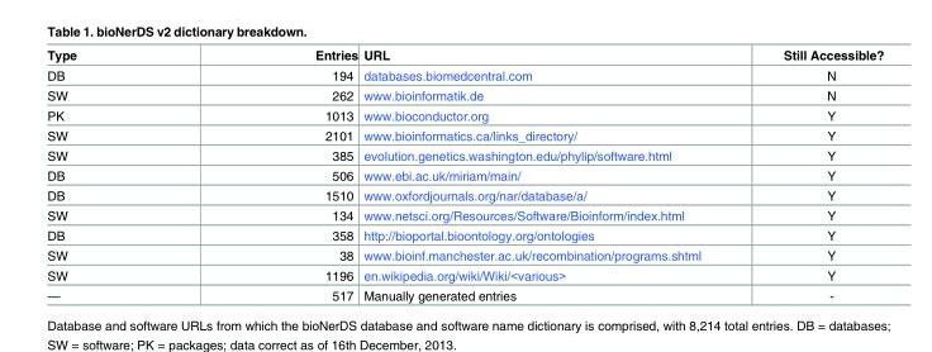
<table><thead><tr><td>Type</td><td>Entries</td><td>URL</td><td>Still Accessible?</td></tr></thead><tbody><tr><td>DB</td><td>194</td><td>databases.biomedcentral.com</td><td>N</td></tr><tr><td>SW</td><td>262</td><td>www.bioinformatik.de</td><td>N</td></tr><tr><td>PK</td><td>1013</td><td>www.bioconductor.org</td><td>Y</td></tr><tr><td>SW</td><td>2101</td><td>www.bioinformatics.ca/links_directory/</td><td>Y</td></tr><tr><td>SW</td><td>385</td><td>evolution.genetics.washington.edu/phylip/software.html</td><td>Y</td></tr><tr><td>DB</td><td>506</td><td>www.ebi.ac.uk/miriam/main/</td><td>Y</td></tr><tr><td>DB</td><td>1510</td><td>www.oxfordjournals.org/nar/database/a/</td><td>Y</td></tr><tr><td>SW</td><td>134</td><td>www.netsci.org/Resources/Software/Bioinform/index.html</td><td>Y</td></tr><tr><td>DB</td><td>358</td><td>http://bioportal.bioontology.org/ontologies</td><td>Y</td></tr><tr><td>SW</td><td>38</td><td>www.bioinf.manchester.ac.uk/recombination/programs.shtml</td><td>Y</td></tr><tr><td>SW</td><td>1196</td><td>en.wikipedia.org/wiki/Wiki/&lt;various&gt;</td><td>Y</td></tr><tr><td>—</td><td>517</td><td>Manually generated entries</td><td>-</td></tr></tbody></table>